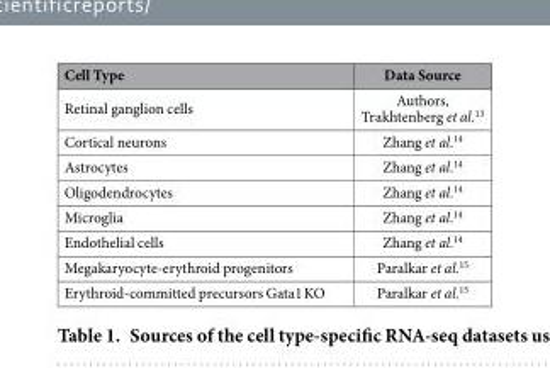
<table><thead><tr><td>Cell Type</td><td>Data Source</td></tr></thead><tbody><tr><td>Retinal ganglion cells</td><td>Authors, Trakhtenberg et al.<sup>13</sup></td></tr><tr><td>Cortical neurons</td><td>Zhang et al.<sup>14</sup></td></tr><tr><td>Astrocytes</td><td>Zhang et al.<sup>14</sup></td></tr><tr><td>Oligodendrocytes</td><td>Zhang et al.<sup>14</sup></td></tr><tr><td>Microglia</td><td>Zhang et al.<sup>14</sup></td></tr><tr><td>Endothelial cells</td><td>Zhang et al.<sup>14</sup></td></tr><tr><td>Megakaryocyte-erythroid progenitors</td><td>Paralkar et al.<sup>15</sup></td></tr><tr><td>Erythroid-committed precursors Gata1 KO</td><td>Paralkar et al.<sup>15</sup></td></tr></tbody></table>